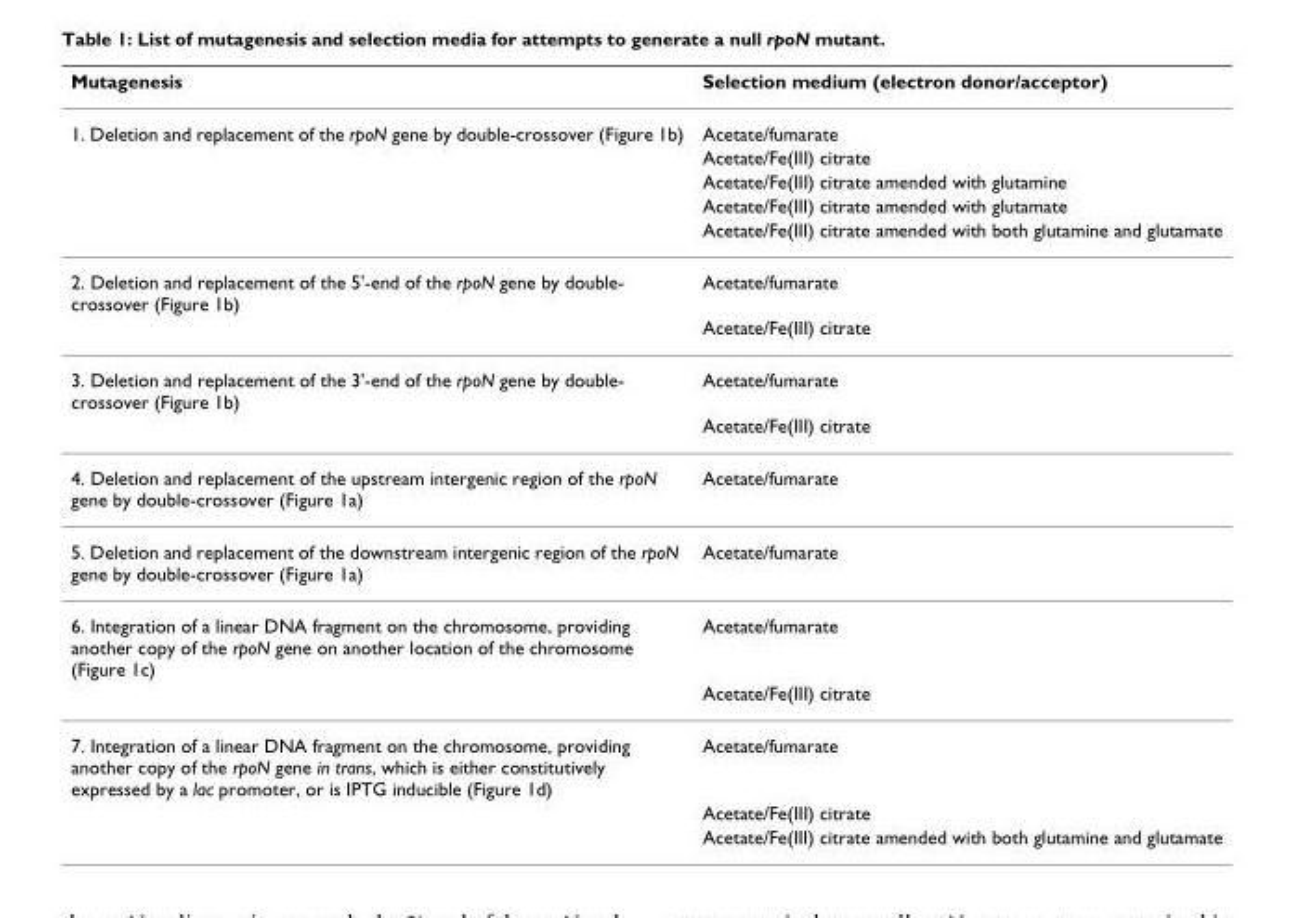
<table><thead><tr><td>Mutagenesis</td><td>Selection medium (electron donor/acceptor)</td></tr></thead><tbody><tr><td rowspan="5">1. Deletion and replacement of the rpoN gene by double-crossover (Figure 1b)</td><td>Acetate/fumarate</td></tr><tr><td>Acetate/Fe(III) citrate</td></tr><tr><td>Acetate/Fe(III) citrate amended with glutamine</td></tr><tr><td>Acetate/Fe(III) citrate amended with glutamate</td></tr><tr><td>Acetate/Fe(III) citrate amended with both glutamine and glutamate</td></tr><tr><td rowspan="2">2. Deletion and replacement of the 5&#x27;-end of the rpoN gene by double- crossover (Figure 1b)</td><td>Acetate/fumarate</td></tr><tr><td>Acetate/Fe(III) citrate</td></tr><tr><td rowspan="2">3. Deletion and replacement of the 3&#x27;-end of the rpoN gene by double- crossover (Figure 1b)</td><td>Acetate/fumarate</td></tr><tr><td>Acetate/Fe(III) citrate</td></tr><tr><td>4. Deletion and replacement of the upstream intergenic region of the rpoN gene by double-crossover (Figure 1a)</td><td>Acetate/fumarate</td></tr><tr><td>5. Deletion and replacement of the downstream intergenic region of the rpoN gene by double-crossover (Figure 1a)</td><td>Acetate/fumarate</td></tr><tr><td rowspan="2">6. Integration of a linear DNA fragment on the chromosome, providing another copy of the rpoN gene on another location of the chromosome (Figure 1c)</td><td>Acetate/fumarate</td></tr><tr><td>Acetate/Fe(III) citrate</td></tr><tr><td rowspan="3">7. Integration of a linear DNA fragment on the chromosome, providing another copy of the rpoN gene in trans, which is either constitutively expressed by a lac promoter, or is IPTG inducible (Figure 1d)</td><td>Acetate/fumarate</td></tr><tr><td>Acetate/Fe(III) citrate</td></tr><tr><td>Acetate/Fe(III) citrate amended with both glutamine and glutamate</td></tr></tbody></table>